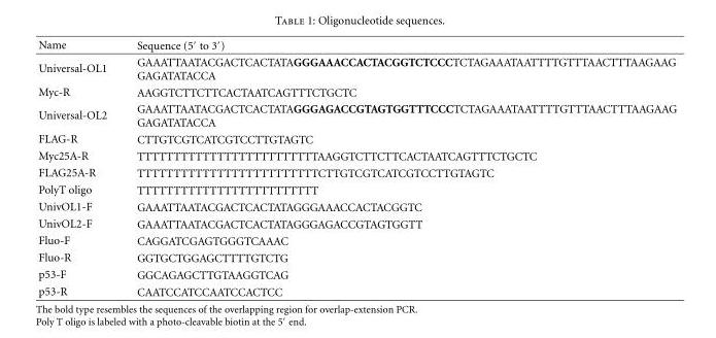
<table><thead><tr><td>Name</td><td>Sequence (5′ to 3′)</td></tr></thead><tbody><tr><td>Universal-OL1</td><td>GAAATTAATACGACTCACTATAGGGAAACCACTACGGTCTCCCTCTAGAAATAATTTTGTTTAACTTTAAGAAG GAGATATACCA</td></tr><tr><td>Myc-R</td><td>AAGGTCTTCTTCACTAATCAGTTTCTGCTC</td></tr><tr><td>Universal-OL2</td><td>GAAATTAATACGACTCACTATAGGGAGACCGTAGTGGTTTCCCTCTAGAAATAATTTTGTTTAACTTTAAGAAG GAGATATACCA</td></tr><tr><td>FLAG-R</td><td>CTTGTCGTCATCGTCCTTGTAGTC</td></tr><tr><td>Myc25A-R</td><td>TTTTTTTTTTTTTTTTTTTTTTTTTAAGGTCTTCTTCACTAATCAGTTTCTGCTC</td></tr><tr><td>FLAG25A-R</td><td>TTTTTTTTTTTTTTTTTTTTTTTTTCTTGTCGTCATCGTCCTTGTAGTC</td></tr><tr><td>PolyT oligo</td><td>TTTTTTTTTTTTTTTTTTTTTTTTT</td></tr><tr><td>UnivOL1-F</td><td>GAAATTAATACGACTCACTATAGGGAAACCACTACGGTC</td></tr><tr><td>UnivOL2-F</td><td>GAAATTAATACGACTCACTATAGGGAGACCGTAGTGGTT</td></tr><tr><td>Fluo-F</td><td>CAGGATCGAGTGGGTCAAAC</td></tr><tr><td>Fluo-R</td><td>GGTGCTGGAGCTTTTGTCTG</td></tr><tr><td>p53-F</td><td>GGCAGAGCTTGTAAGGTCAG</td></tr><tr><td>p53-R</td><td>CAATCCATCCAATCCACTCC</td></tr></tbody></table>